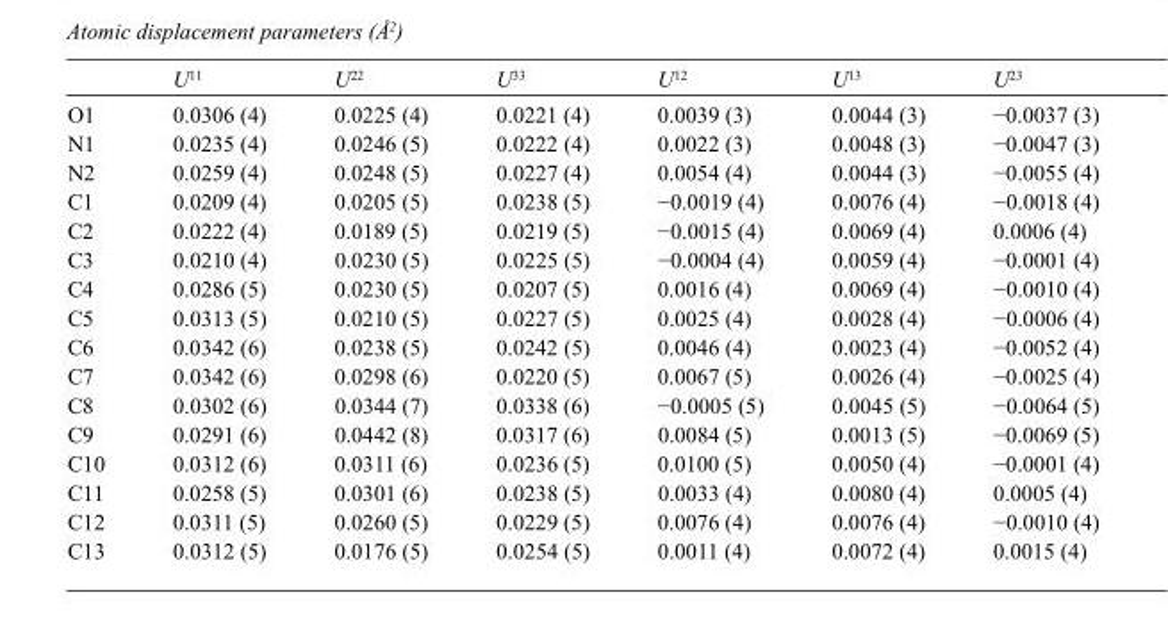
<table><thead><tr><td></td><td>U<sup>11</sup></td><td>U<sup>22</sup></td><td>U<sup>33</sup></td><td>U<sup>12</sup></td><td>U<sup>13</sup></td><td>U<sup>23</sup></td></tr></thead><tbody><tr><td>O1</td><td>0.0306 (4)</td><td>0.0225 (4)</td><td>0.0221 (4)</td><td>0.0039 (3)</td><td>0.0044 (3)</td><td>−0.0037 (3)</td></tr><tr><td>N1</td><td>0.0235 (4)</td><td>0.0246 (5)</td><td>0.0222 (4)</td><td>0.0022 (3)</td><td>0.0048 (3)</td><td>−0.0047 (3)</td></tr><tr><td>N2</td><td>0.0259 (4)</td><td>0.0248 (5)</td><td>0.0227 (4)</td><td>0.0054 (4)</td><td>0.0044 (3)</td><td>−0.0055 (4)</td></tr><tr><td>C1</td><td>0.0209 (4)</td><td>0.0205 (5)</td><td>0.0238 (5)</td><td>−0.0019 (4)</td><td>0.0076 (4)</td><td>−0.0018 (4)</td></tr><tr><td>C2</td><td>0.0222 (4)</td><td>0.0189 (5)</td><td>0.0219 (5)</td><td>−0.0015 (4)</td><td>0.0069 (4)</td><td>0.0006 (4)</td></tr><tr><td>C3</td><td>0.0210 (4)</td><td>0.0230 (5)</td><td>0.0225 (5)</td><td>−0.0004 (4)</td><td>0.0059 (4)</td><td>−0.0001 (4)</td></tr><tr><td>C4</td><td>0.0286 (5)</td><td>0.0230 (5)</td><td>0.0207 (5)</td><td>0.0016 (4)</td><td>0.0069 (4)</td><td>−0.0010 (4)</td></tr><tr><td>C5</td><td>0.0313 (5)</td><td>0.0210 (5)</td><td>0.0227 (5)</td><td>0.0025 (4)</td><td>0.0028 (4)</td><td>−0.0006 (4)</td></tr><tr><td>C6</td><td>0.0342 (6)</td><td>0.0238 (5)</td><td>0.0242 (5)</td><td>0.0046 (4)</td><td>0.0023 (4)</td><td>−0.0052 (4)</td></tr><tr><td>C7</td><td>0.0342 (6)</td><td>0.0298 (6)</td><td>0.0220 (5)</td><td>0.0067 (5)</td><td>0.0026 (4)</td><td>−0.0025 (4)</td></tr><tr><td>C8</td><td>0.0302 (6)</td><td>0.0344 (7)</td><td>0.0338 (6)</td><td>−0.0005 (5)</td><td>0.0045 (5)</td><td>−0.0064 (5)</td></tr><tr><td>C9</td><td>0.0291 (6)</td><td>0.0442 (8)</td><td>0.0317 (6)</td><td>0.0084 (5)</td><td>0.0013 (5)</td><td>−0.0069 (5)</td></tr><tr><td>C10</td><td>0.0312 (6)</td><td>0.0311 (6)</td><td>0.0236 (5)</td><td>0.0100 (5)</td><td>0.0050 (4)</td><td>−0.0001 (4)</td></tr><tr><td>C11</td><td>0.0258 (5)</td><td>0.0301 (6)</td><td>0.0238 (5)</td><td>0.0033 (4)</td><td>0.0080 (4)</td><td>0.0005 (4)</td></tr><tr><td>C12</td><td>0.0311 (5)</td><td>0.0260 (5)</td><td>0.0229 (5)</td><td>0.0076 (4)</td><td>0.0076 (4)</td><td>−0.0010 (4)</td></tr><tr><td>C13</td><td>0.0312 (5)</td><td>0.0176 (5)</td><td>0.0254 (5)</td><td>0.0011 (4)</td><td>0.0072 (4)</td><td>0.0015 (4)</td></tr></tbody></table>